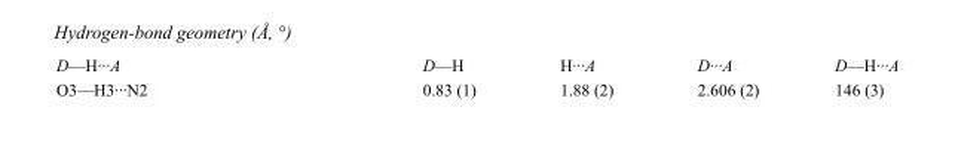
<table><tbody><tr><td>D—H···A</td><td>D—H</td><td>H···A</td><td>D···A</td><td>D—H···A</td></tr><tr><td>O3—H3···N2</td><td>0.83 (1)</td><td>1.88 (2)</td><td>2.606 (2)</td><td>146 (3)</td></tr></tbody></table>